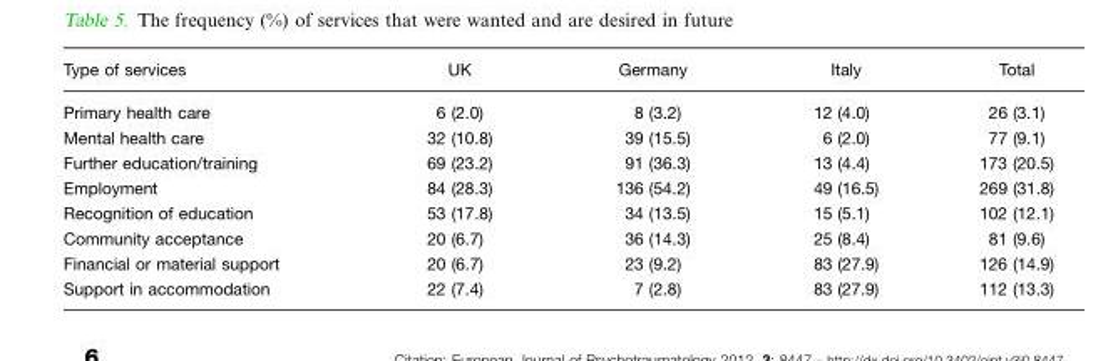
<table><thead><tr><td>Type of services</td><td>UK</td><td>Germany</td><td>Italy</td><td>Total</td></tr></thead><tbody><tr><td>Primary health care</td><td>6 (2.0)</td><td>8 (3.2)</td><td>12 (4.0)</td><td>26 (3.1)</td></tr><tr><td>Mental health care</td><td>32 (10.8)</td><td>39 (15.5)</td><td>6 (2.0)</td><td>77 (9.1)</td></tr><tr><td>Further education/training</td><td>69 (23.2)</td><td>91 (36.3)</td><td>13 (4.4)</td><td>173 (20.5)</td></tr><tr><td>Employment</td><td>84 (28.3)</td><td>136 (54.2)</td><td>49 (16.5)</td><td>269 (31.8)</td></tr><tr><td>Recognition of education</td><td>53 (17.8)</td><td>34 (13.5)</td><td>15 (5.1)</td><td>102 (12.1)</td></tr><tr><td>Community acceptance</td><td>20 (6.7)</td><td>36 (14.3)</td><td>25 (8.4)</td><td>81 (9.6)</td></tr><tr><td>Financial or material support</td><td>20 (6.7)</td><td>23 (9.2)</td><td>83 (27.9)</td><td>126 (14.9)</td></tr><tr><td>Support in accommodation</td><td>22 (7.4)</td><td>7 (2.8)</td><td>83 (27.9)</td><td>112 (13.3)</td></tr></tbody></table>